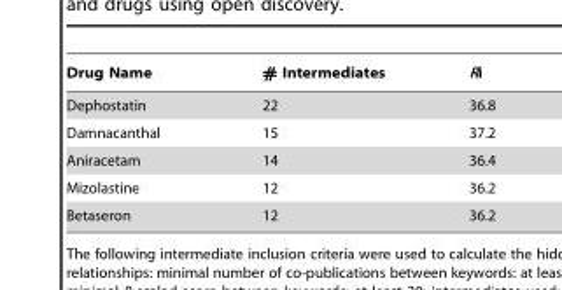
<table><thead><tr><td>Drug Name</td><td># Intermediates</td><td>Ri</td></tr></thead><tbody><tr><td>Dephostatin</td><td>22</td><td>36.8</td></tr><tr><td>Damnacanthal</td><td>15</td><td>37.2</td></tr><tr><td>Aniracetam</td><td>14</td><td>36.4</td></tr><tr><td>Mizolastine</td><td>12</td><td>36.2</td></tr><tr><td>Betaseron</td><td>12</td><td>36.2</td></tr></tbody></table>